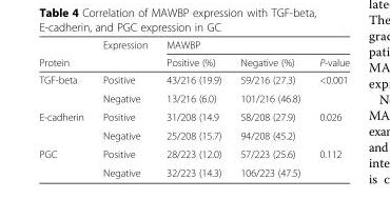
<table><thead><tr><td rowspan="2">Protein</td><td rowspan="2">Expression</td><td colspan="3">MAWBP</td></tr><tr><td>Positive (%)</td><td>Negative (%)</td><td>P-value</td></tr></thead><tbody><tr><td rowspan="2">TGF-beta</td><td>Positive</td><td>43/216 (19.9)</td><td>59/216 (27.3)</td><td>&lt;0.001</td></tr><tr><td>Negative</td><td>13/216 (6.0)</td><td>101/216 (46.8)</td><td></td></tr><tr><td rowspan="2">E-cadherin</td><td>Positive</td><td>31/208 (14.9</td><td>58/208 (27.9)</td><td>0.026</td></tr><tr><td>Negative</td><td>25/208 (15.7)</td><td>94/208 (45.2)</td><td></td></tr><tr><td rowspan="2">PGC</td><td>Positive</td><td>28/223 (12.0)</td><td>57/223 (25.6)</td><td>0.112</td></tr><tr><td>Negative</td><td>32/223 (14.3)</td><td>106/223 (47.5)</td><td></td></tr></tbody></table>